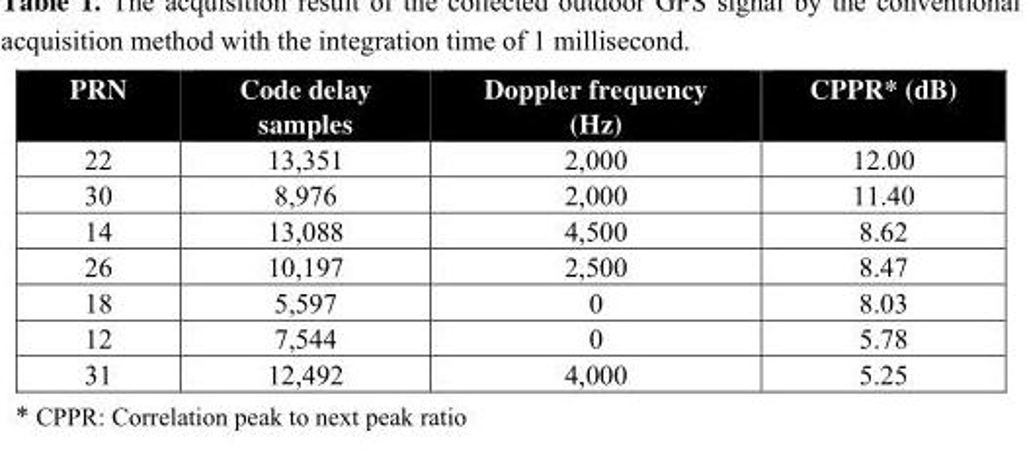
<table><thead><tr><td>PRN</td><td>Code delay samples</td><td>Doppler frequency (Hz)</td><td>CPPR* (dB)</td></tr></thead><tbody><tr><td>22</td><td>13,351</td><td>2,000</td><td>12.00</td></tr><tr><td>30</td><td>8,976</td><td>2,000</td><td>11.40</td></tr><tr><td>14</td><td>13,088</td><td>4,500</td><td>8.62</td></tr><tr><td>26</td><td>10,197</td><td>2,500</td><td>8.47</td></tr><tr><td>18</td><td>5,597</td><td>0</td><td>8.03</td></tr><tr><td>12</td><td>7,544</td><td>0</td><td>5.78</td></tr><tr><td>31</td><td>12,492</td><td>4,000</td><td>5.25</td></tr></tbody></table>